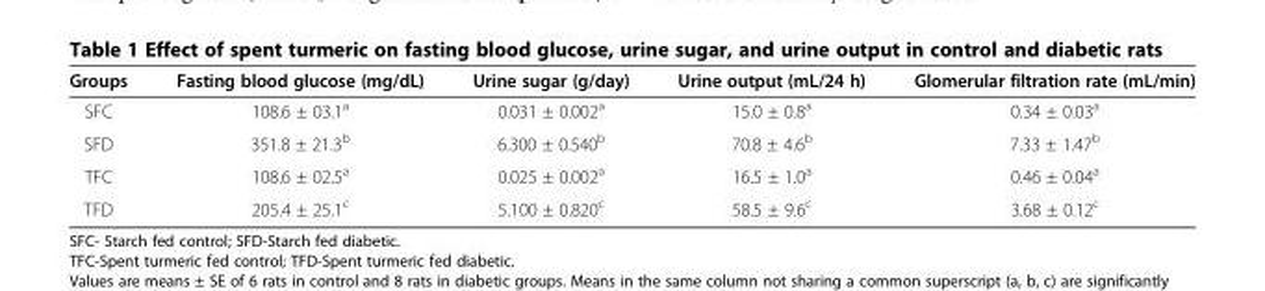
<table><thead><tr><td>Groups</td><td>Fasting blood glucose (mg/dL)</td><td>Urine sugar (g/day)</td><td>Urine output (mL/24 h)</td><td>Glomerular filtration rate (mL/min)</td></tr></thead><tbody><tr><td>SFC</td><td>108.6 ± 03.1<sup>a</sup></td><td>0.031 ± 0.002<sup>a</sup></td><td>15.0 ± 0.8<sup>a</sup></td><td>0.34 ± 0.03<sup>a</sup></td></tr><tr><td>SFD</td><td>351.8 ± 21.3<sup>b</sup></td><td>6.300 ± 0.540<sup>b</sup></td><td>70.8 ± 4.6<sup>b</sup></td><td>7.33 ± 1.47<sup>b</sup></td></tr><tr><td>TFC</td><td>108.6 ± 02.5<sup>a</sup></td><td>0.025 ± 0.002<sup>a</sup></td><td>16.5 ± 1.0<sup>a</sup></td><td>0.46 ± 0.04<sup>a</sup></td></tr><tr><td>TFD</td><td>205.4 ± 25.1<sup>c</sup></td><td>5.100 ± 0.820<sup>c</sup></td><td>58.5 ± 9.6<sup>c</sup></td><td>3.68 ± 0.12<sup>c</sup></td></tr></tbody></table>